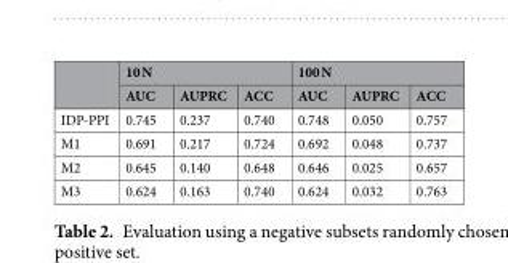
<table><thead><tr><td rowspan="2"></td><td colspan="3">10 N</td><td colspan="3">100 N</td></tr><tr><td>AUC</td><td>AUPRC</td><td>ACC</td><td>AUC</td><td>AUPRC</td><td>ACC</td></tr></thead><tbody><tr><td>IDP-PPI</td><td>0.745</td><td>0.237</td><td>0.740</td><td>0.748</td><td>0.050</td><td>0.757</td></tr><tr><td>M1</td><td>0.691</td><td>0.217</td><td>0.724</td><td>0.692</td><td>0.048</td><td>0.737</td></tr><tr><td>M2</td><td>0.645</td><td>0.140</td><td>0.648</td><td>0.646</td><td>0.025</td><td>0.657</td></tr><tr><td>M3</td><td>0.624</td><td>0.163</td><td>0.740</td><td>0.624</td><td>0.032</td><td>0.763</td></tr></tbody></table>